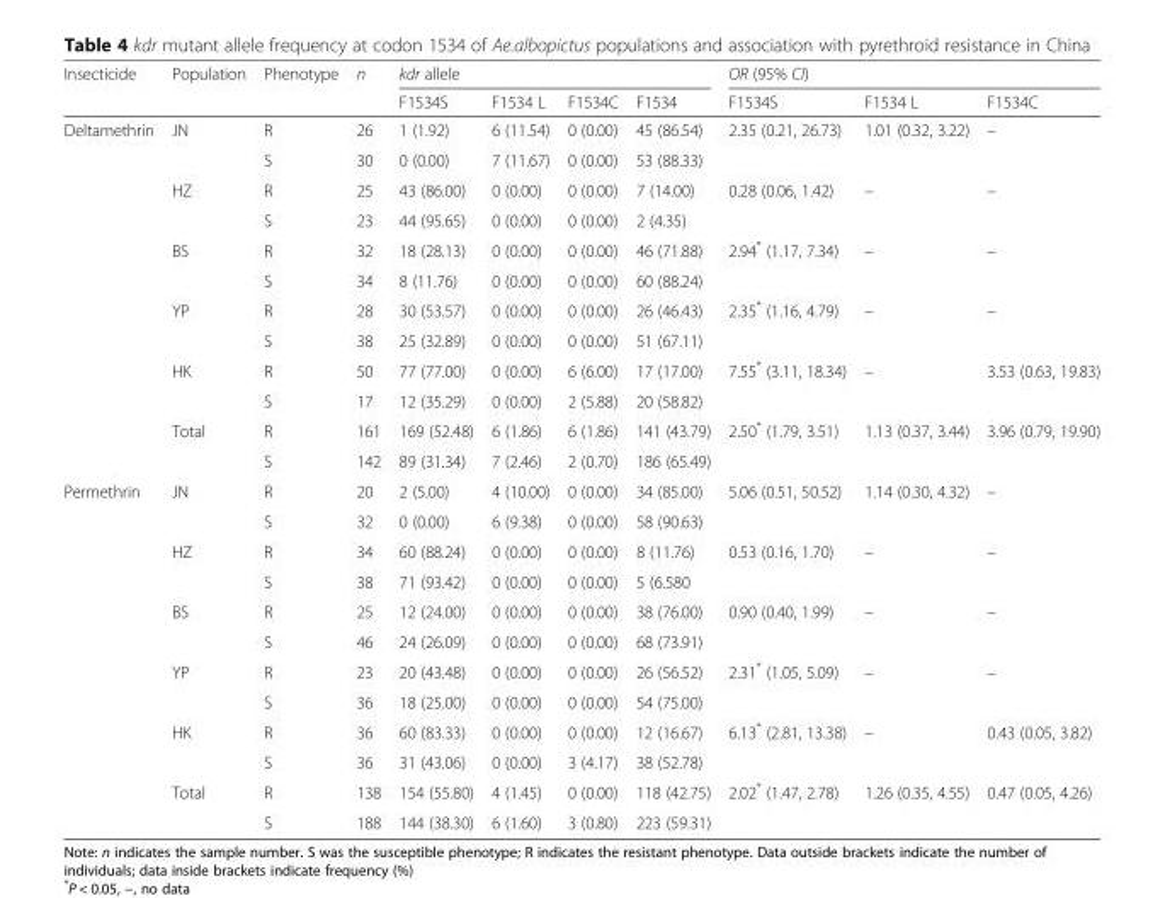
<table><thead><tr><td rowspan="2">Insecticide</td><td rowspan="2">Population</td><td rowspan="2">Phenotype</td><td rowspan="2">n</td><td colspan="4">kdr allele</td><td colspan="3">OR (95% CI)</td></tr><tr><td>F1534S</td><td>F1534 L</td><td>F1534C</td><td>F1534</td><td>F1534S</td><td>F1534 L</td><td>F1534C</td></tr></thead><tbody><tr><td rowspan="12">Deltamethrin</td><td rowspan="2">JN</td><td>R</td><td>26</td><td>1 (1.92)</td><td>6 (11.54)</td><td>0 (0.00)</td><td>45 (86.54)</td><td rowspan="2">2.35 (0.21, 26.73)</td><td rowspan="2">1.01 (0.32, 3.22)</td><td rowspan="2">–</td></tr><tr><td>S</td><td>30</td><td>0 (0.00)</td><td>7 (11.67)</td><td>0 (0.00)</td><td>53 (88.33)</td></tr><tr><td rowspan="2">HZ</td><td>R</td><td>25</td><td>43 (86.00)</td><td>0 (0.00)</td><td>0 (0.00)</td><td>7 (14.00)</td><td rowspan="2">0.28 (0.06, 1.42)</td><td rowspan="2">–</td><td rowspan="2">–</td></tr><tr><td>S</td><td>23</td><td>44 (95.65)</td><td>0 (0.00)</td><td>0 (0.00)</td><td>2 (4.35)</td></tr><tr><td rowspan="2">BS</td><td>R</td><td>32</td><td>18 (28.13)</td><td>0 (0.00)</td><td>0 (0.00)</td><td>46 (71.88)</td><td rowspan="2">2.94* (1.17, 7.34)</td><td rowspan="2">–</td><td rowspan="2">–</td></tr><tr><td>S</td><td>34</td><td>8 (11.76)</td><td>0 (0.00)</td><td>0 (0.00)</td><td>60 (88.24)</td></tr><tr><td rowspan="2">YP</td><td>R</td><td>28</td><td>30 (53.57)</td><td>0 (0.00)</td><td>0 (0.00)</td><td>26 (46.43)</td><td rowspan="2">2.35* (1.16, 4.79)</td><td rowspan="2">–</td><td rowspan="2">–</td></tr><tr><td>S</td><td>38</td><td>25 (32.89)</td><td>0 (0.00)</td><td>0 (0.00)</td><td>51 (67.11)</td></tr><tr><td rowspan="2">HK</td><td>R</td><td>50</td><td>77 (77.00)</td><td>0 (0.00)</td><td>6 (6.00)</td><td>17 (17.00)</td><td rowspan="2">7.55* (3.11, 18.34)</td><td rowspan="2">–</td><td rowspan="2">3.53 (0.63, 19.83)</td></tr><tr><td>S</td><td>17</td><td>12 (35.29)</td><td>0 (0.00)</td><td>2 (5.88)</td><td>20 (58.82)</td></tr><tr><td rowspan="2">Total</td><td>R</td><td>161</td><td>169 (52.48)</td><td>6 (1.86)</td><td>6 (1.86)</td><td>141 (43.79)</td><td rowspan="2">2.50* (1.79, 3.51)</td><td rowspan="2">1.13 (0.37, 3.44)</td><td rowspan="2">3.96 (0.79, 19.90)</td></tr><tr><td>S</td><td>142</td><td>89 (31.34)</td><td>7 (2.46)</td><td>2 (0.70)</td><td>186 (65.49)</td></tr><tr><td rowspan="12">Permethrin</td><td rowspan="2">JN</td><td>R</td><td>20</td><td>2 (5.00)</td><td>4 (10.00)</td><td>0 (0.00)</td><td>34 (85.00)</td><td rowspan="2">5.06 (0.51, 50.52)</td><td rowspan="2">1.14 (0.30, 4.32)</td><td rowspan="2">–</td></tr><tr><td>S</td><td>32</td><td>0 (0.00)</td><td>6 (9.38)</td><td>0 (0.00)</td><td>58 (90.63)</td></tr><tr><td rowspan="2">HZ</td><td>R</td><td>34</td><td>60 (88.24)</td><td>0 (0.00)</td><td>0 (0.00)</td><td>8 (11.76)</td><td rowspan="2">0.53 (0.16, 1.70)</td><td rowspan="2">–</td><td rowspan="2">–</td></tr><tr><td>S</td><td>38</td><td>71 (93.42)</td><td>0 (0.00)</td><td>0 (0.00)</td><td>5 (6.580</td></tr><tr><td rowspan="2">BS</td><td>R</td><td>25</td><td>12 (24.00)</td><td>0 (0.00)</td><td>0 (0.00)</td><td>38 (76.00)</td><td rowspan="2">0.90 (0.40, 1.99)</td><td rowspan="2">–</td><td rowspan="2">–</td></tr><tr><td>S</td><td>46</td><td>24 (26.09)</td><td>0 (0.00)</td><td>0 (0.00)</td><td>68 (73.91)</td></tr><tr><td rowspan="2">YP</td><td>R</td><td>23</td><td>20 (43.48)</td><td>0 (0.00)</td><td>0 (0.00)</td><td>26 (56.52)</td><td rowspan="2">2.31* (1.05, 5.09)</td><td rowspan="2">–</td><td rowspan="2">–</td></tr><tr><td>S</td><td>36</td><td>18 (25.00)</td><td>0 (0.00)</td><td>0 (0.00)</td><td>54 (75.00)</td></tr><tr><td rowspan="2">HK</td><td>R</td><td>36</td><td>60 (83.33)</td><td>0 (0.00)</td><td>0 (0.00)</td><td>12 (16.67)</td><td rowspan="2">6.13* (2.81, 13.38)</td><td rowspan="2">–</td><td rowspan="2">0.43 (0.05, 3.82)</td></tr><tr><td>S</td><td>36</td><td>31 (43.06)</td><td>0 (0.00)</td><td>3 (4.17)</td><td>38 (52.78)</td></tr><tr><td rowspan="2">Total</td><td>R</td><td>138</td><td>154 (55.80)</td><td>4 (1.45)</td><td>0 (0.00)</td><td>118 (42.75)</td><td rowspan="2">2.02* (1.47, 2.78)</td><td rowspan="2">1.26 (0.35, 4.55)</td><td rowspan="2">0.47 (0.05, 4.26)</td></tr><tr><td>S</td><td>188</td><td>144 (38.30)</td><td>6 (1.60)</td><td>3 (0.80)</td><td>223 (59.31)</td></tr></tbody></table>